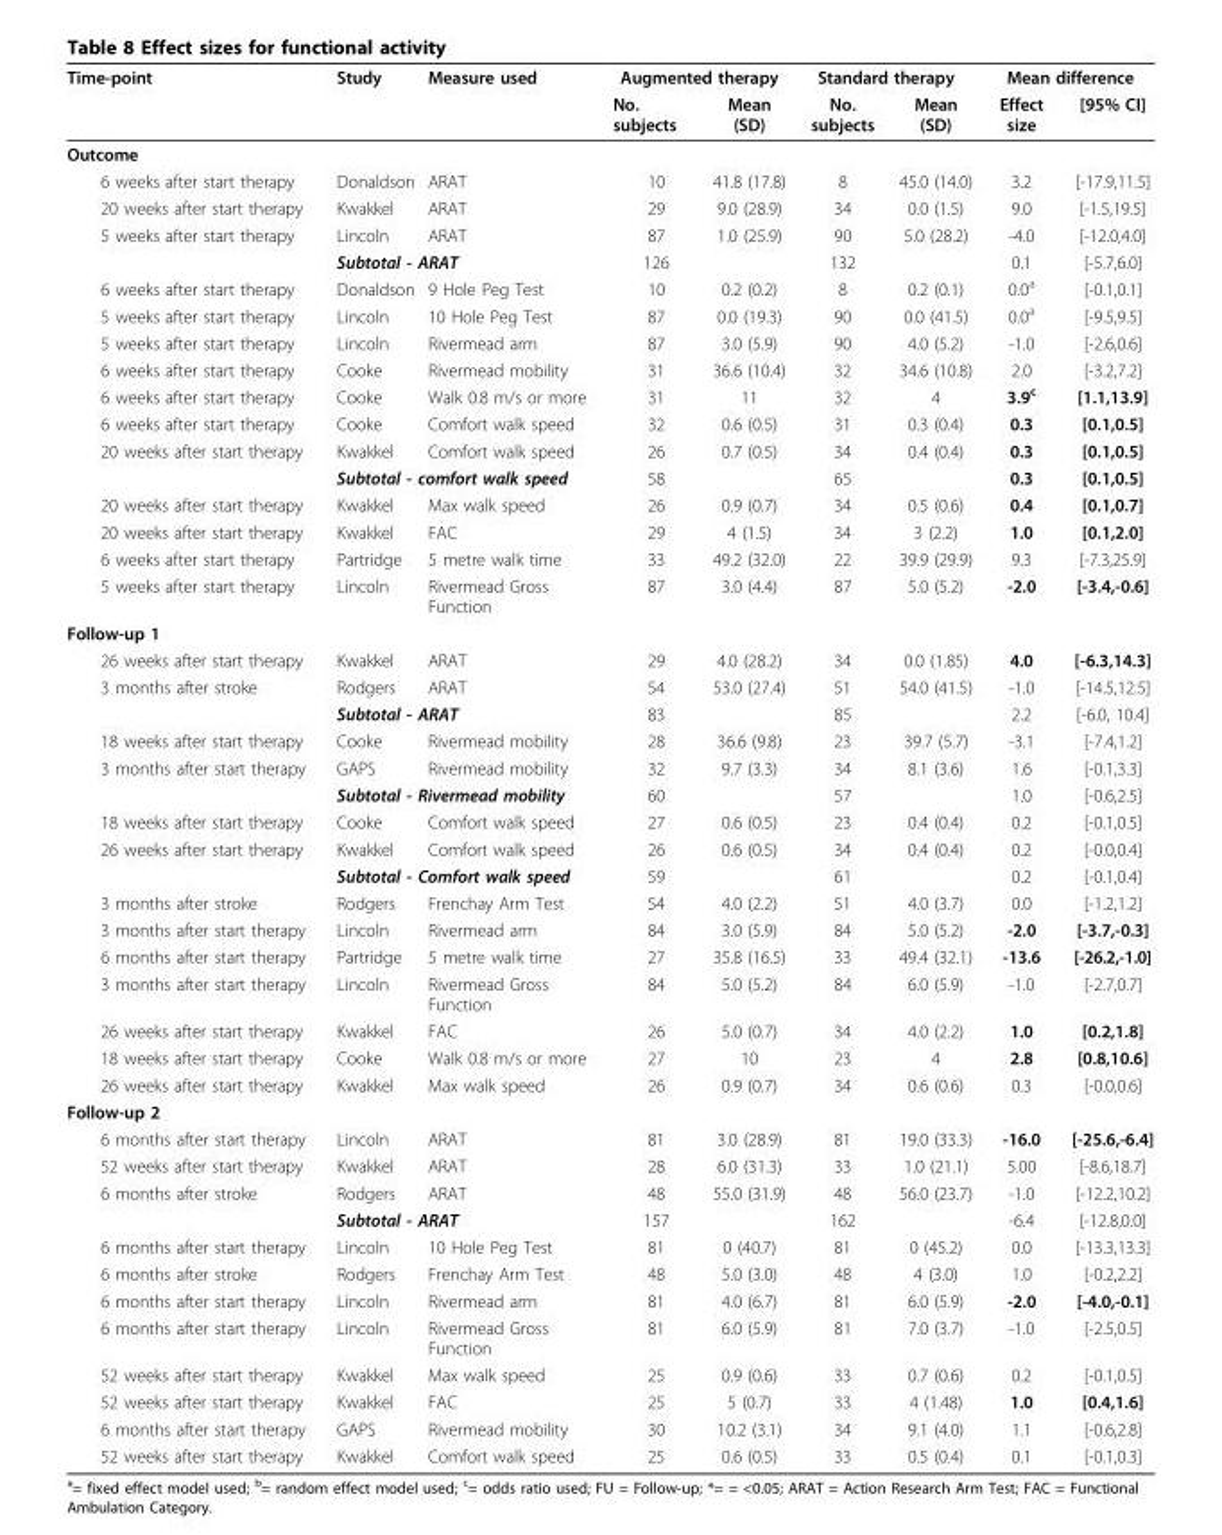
<table><thead><tr><td rowspan="2">Time-point</td><td rowspan="2">Study</td><td rowspan="2">Measure used</td><td colspan="2">Augmented therapy</td><td colspan="2">Standard therapy</td><td colspan="2">Mean difference</td></tr><tr><td>No. subjects</td><td>Mean (SD)</td><td>No. subjects</td><td>Mean (SD)</td><td>Effect size</td><td>[95% CI]</td></tr></thead><tbody><tr><td colspan="9">Outcome</td></tr><tr><td>6 weeks after start therapy</td><td>Donaldson</td><td>ARAT</td><td>10</td><td>41.8 (17.8)</td><td>8</td><td>45.0 (14.0)</td><td>3.2</td><td>[-17.9,11.5]</td></tr><tr><td>20 weeks after start therapy</td><td>Kwakkel</td><td>ARAT</td><td>29</td><td>9.0 (28.9)</td><td>34</td><td>0.0 (1.5)</td><td>9.0</td><td>[-1.5,19.5]</td></tr><tr><td rowspan="2">5 weeks after start therapy</td><td>Lincoln</td><td>ARAT</td><td>87</td><td>1.0 (25.9)</td><td>90</td><td>5.0 (28.2)</td><td>-4.0</td><td>[-12.0,4.0]</td></tr><tr><td colspan="2">Subtotal - ARAT</td><td>126</td><td></td><td>132</td><td></td><td>0.1</td><td>[-5.7,6.0]</td></tr><tr><td>6 weeks after start therapy</td><td>Donaldson</td><td>9 Hole Peg Test</td><td>10</td><td>0.2 (0.2)</td><td>8</td><td>0.2 (0.1)</td><td>0.0<sup>a</sup></td><td>[-0.1,0.1]</td></tr><tr><td>5 weeks after start therapy</td><td>Lincoln</td><td>10 Hole Peg Test</td><td>87</td><td>0.0 (19.3)</td><td>90</td><td>0.0 (41.5)</td><td>0.0<sup>a</sup></td><td>[-9.5,9.5]</td></tr><tr><td>5 weeks after start therapy</td><td>Lincoln</td><td>Rivermead arm</td><td>87</td><td>3.0 (5.9)</td><td>90</td><td>4.0 (5.2)</td><td>-1.0</td><td>[-2.6,0.6]</td></tr><tr><td>6 weeks after start therapy</td><td>Cooke</td><td>Rivermead mobility</td><td>31</td><td>36.6 (10.4)</td><td>32</td><td>34.6 (10.8)</td><td>2.0</td><td>[-3.2,7.2]</td></tr><tr><td>6 weeks after start therapy</td><td>Cooke</td><td>Walk 0.8 m/s or more</td><td>31</td><td>11</td><td>32</td><td>4</td><td>3.9<sup>c</sup></td><td>[1.1,13.9]</td></tr><tr><td>6 weeks after start therapy</td><td>Cooke</td><td>Comfort walk speed</td><td>32</td><td>0.6 (0.5)</td><td>31</td><td>0.3 (0.4)</td><td>0.3</td><td>[0.1,0.5]</td></tr><tr><td rowspan="2">20 weeks after start therapy</td><td>Kwakkel</td><td>Comfort walk speed</td><td>26</td><td>0.7 (0.5)</td><td>34</td><td>0.4 (0.4)</td><td>0.3</td><td>[0.1,0.5]</td></tr><tr><td colspan="2">Subtotal - comfort walk speed</td><td>58</td><td></td><td>65</td><td></td><td>0.3</td><td>[0.1,0.5]</td></tr><tr><td>20 weeks after start therapy</td><td>Kwakkel</td><td>Max walk speed</td><td>26</td><td>0.9 (0.7)</td><td>34</td><td>0.5 (0.6)</td><td>0.4</td><td>[0.1,0.7]</td></tr><tr><td>20 weeks after start therapy</td><td>Kwakkel</td><td>FAC</td><td>29</td><td>4 (1.5)</td><td>34</td><td>3 (2.2)</td><td>1.0</td><td>[0.1,2.0]</td></tr><tr><td>6 weeks after start therapy</td><td>Partridge</td><td>5 metre walk time</td><td>33</td><td>49.2 (32.0)</td><td>22</td><td>39.9 (29.9)</td><td>9.3</td><td>[-7.3,25.9]</td></tr><tr><td>5 weeks after start therapy</td><td>Lincoln</td><td>Rivermead Gross Function</td><td>87</td><td>3.0 (4.4)</td><td>87</td><td>5.0 (5.2)</td><td>-2.0</td><td>[-3.4,-0.6]</td></tr><tr><td colspan="9">Follow-up 1</td></tr><tr><td>26 weeks after start therapy</td><td>Kwakkel</td><td>ARAT</td><td>29</td><td>4.0 (28.2)</td><td>34</td><td>0.0 (1.85)</td><td>4.0</td><td>[-6.3,14.3]</td></tr><tr><td rowspan="2">3 months after stroke</td><td>Rodgers</td><td>ARAT</td><td>54</td><td>53.0 (27.4)</td><td>51</td><td>54.0 (41.5)</td><td>-1.0</td><td>[-14.5,12.5]</td></tr><tr><td colspan="2">Subtotal - ARAT</td><td>83</td><td></td><td>85</td><td></td><td>2.2</td><td>[-6.0, 10.4]</td></tr><tr><td>18 weeks after start therapy</td><td>Cooke</td><td>Rivermead mobility</td><td>28</td><td>36.6 (9.8)</td><td>23</td><td>39.7 (5.7)</td><td>-3.1</td><td>[-7.4,1.2]</td></tr><tr><td rowspan="2">3 months after start therapy</td><td>GAPS</td><td>Rivermead mobility</td><td>32</td><td>9.7 (3.3)</td><td>34</td><td>8.1 (3.6)</td><td>1.6</td><td>[-0.1,3.3]</td></tr><tr><td colspan="2">Subtotal - Rivermead mobility</td><td>60</td><td></td><td>57</td><td></td><td>1.0</td><td>[-0.6,2.5]</td></tr><tr><td>18 weeks after start therapy</td><td>Cooke</td><td>Comfort walk speed</td><td>27</td><td>0.6 (0.5)</td><td>23</td><td>0.4 (0.4)</td><td>0.2</td><td>[-0.1,0.5]</td></tr><tr><td rowspan="2">26 weeks after start therapy</td><td>Kwakkel</td><td>Comfort walk speed</td><td>26</td><td>0.6 (0.5)</td><td>34</td><td>0.4 (0.4)</td><td>0.2</td><td>[-0.0,0.4]</td></tr><tr><td colspan="2">Subtotal - Comfort walk speed</td><td>59</td><td></td><td>61</td><td></td><td>0.2</td><td>[-0.1,0.4]</td></tr><tr><td>3 months after stroke</td><td>Rodgers</td><td>Frenchay Arm Test</td><td>54</td><td>4.0 (2.2)</td><td>51</td><td>4.0 (3.7)</td><td>0.0</td><td>[-1.2,1.2]</td></tr><tr><td>3 months after start therapy</td><td>Lincoln</td><td>Rivermead arm</td><td>84</td><td>3.0 (5.9)</td><td>84</td><td>5.0 (5.2)</td><td>-2.0</td><td>[-3.7,-0.3]</td></tr><tr><td>6 months after start therapy</td><td>Partridge</td><td>5 metre walk time</td><td>27</td><td>35.8 (16.5)</td><td>33</td><td>49.4 (32.1)</td><td>-13.6</td><td>[-26.2,-1.0]</td></tr><tr><td>3 months after start therapy</td><td>Lincoln</td><td>Rivermead Gross Function</td><td>84</td><td>5.0 (5.2)</td><td>84</td><td>6.0 (5.9)</td><td>-1.0</td><td>[-2.7,0.7]</td></tr><tr><td>26 weeks after start therapy</td><td>Kwakkel</td><td>FAC</td><td>26</td><td>5.0 (0.7)</td><td>34</td><td>4.0 (2.2)</td><td>1.0</td><td>[0.2,1.8]</td></tr><tr><td>18 weeks after start therapy</td><td>Cooke</td><td>Walk 0.8 m/s or more</td><td>27</td><td>10</td><td>23</td><td>4</td><td>2.8</td><td>[0.8,10.6]</td></tr><tr><td>26 weeks after start therapy</td><td>Kwakkel</td><td>Max walk speed</td><td>26</td><td>0.9 (0.7)</td><td>34</td><td>0.6 (0.6)</td><td>0.3</td><td>[-0.0,0.6]</td></tr><tr><td colspan="9">Follow-up 2</td></tr><tr><td>6 months after start therapy</td><td>Lincoln</td><td>ARAT</td><td>81</td><td>3.0 (28.9)</td><td>81</td><td>19.0 (33.3)</td><td>-16.0</td><td>[-25.6,-6.4]</td></tr><tr><td>52 weeks after start therapy</td><td>Kwakkel</td><td>ARAT</td><td>28</td><td>6.0 (31.3)</td><td>33</td><td>1.0 (21.1)</td><td>5.00</td><td>[-8.6,18.7]</td></tr><tr><td rowspan="2">6 months after stroke</td><td>Rodgers</td><td>ARAT</td><td>48</td><td>55.0 (31.9)</td><td>48</td><td>56.0 (23.7)</td><td>-1.0</td><td>[-12.2,10.2]</td></tr><tr><td colspan="2">Subtotal - ARAT</td><td>157</td><td></td><td>162</td><td></td><td>-6.4</td><td>[-12.8,0.0]</td></tr><tr><td>6 months after start therapy</td><td>Lincoln</td><td>10 Hole Peg Test</td><td>81</td><td>0 (40.7)</td><td>81</td><td>0 (45.2)</td><td>0.0</td><td>[-13.3,13.3]</td></tr><tr><td>6 months after stroke</td><td>Rodgers</td><td>Frenchay Arm Test</td><td>48</td><td>5.0 (3.0)</td><td>48</td><td>4 (3.0)</td><td>1.0</td><td>[-0.2,2.2]</td></tr><tr><td>6 months after start therapy</td><td>Lincoln</td><td>Rivermead arm</td><td>81</td><td>4.0 (6.7)</td><td>81</td><td>6.0 (5.9)</td><td>-2.0</td><td>[-4.0,-0.1]</td></tr><tr><td>6 months after start therapy</td><td>Lincoln</td><td>Rivermead Gross Function</td><td>81</td><td>6.0 (5.9)</td><td>81</td><td>7.0 (3.7)</td><td>-1.0</td><td>[-2.5,0.5]</td></tr><tr><td>52 weeks after start therapy</td><td>Kwakkel</td><td>Max walk speed</td><td>25</td><td>0.9 (0.6)</td><td>33</td><td>0.7 (0.6)</td><td>0.2</td><td>[-0.1,0.5]</td></tr><tr><td>52 weeks after start therapy</td><td>Kwakkel</td><td>FAC</td><td>25</td><td>5 (0.7)</td><td>33</td><td>4 (1.48)</td><td>1.0</td><td>[0.4,1.6]</td></tr><tr><td>6 months after start therapy</td><td>GAPS</td><td>Rivermead mobility</td><td>30</td><td>10.2 (3.1)</td><td>34</td><td>9.1 (4.0)</td><td>1.1</td><td>[-0.6,2.8]</td></tr><tr><td>52 weeks after start therapy</td><td>Kwakkel</td><td>Comfort walk speed</td><td>25</td><td>0.6 (0.5)</td><td>33</td><td>0.5 (0.4)</td><td>0.1</td><td>[-0.1,0.3]</td></tr></tbody></table>